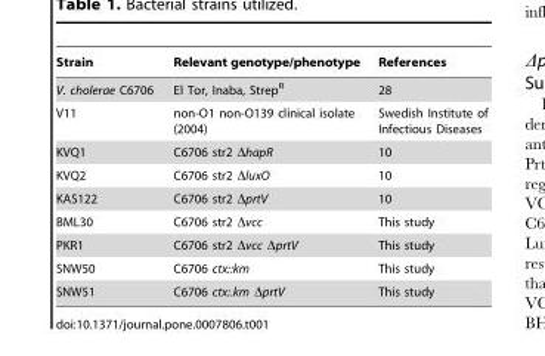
<table><thead><tr><td>Strain</td><td>Relevant genotype/phenotype</td><td>References</td></tr></thead><tbody><tr><td>V. cholerae C6706</td><td>El Tor, Inaba, Strep<sup>R</sup></td><td>28</td></tr><tr><td>V11</td><td>non-O1 non-O139 clinical isolate (2004)</td><td>Swedish Institute of Infectious Diseases</td></tr><tr><td>KVQ1</td><td>C6706 str2 ΔhapR</td><td>10</td></tr><tr><td>KVQ2</td><td>C6706 str2 ΔluxO</td><td>10</td></tr><tr><td>KAS122</td><td>C6706 str2 ΔprtV</td><td>10</td></tr><tr><td>BML30</td><td>C6706 str2 Δvcc</td><td>This study</td></tr><tr><td>PKR1</td><td>C6706 str2 Δvcc ΔprtV</td><td>This study</td></tr><tr><td>SNW50</td><td>C6706 ctx::km</td><td>This study</td></tr><tr><td>SNW51</td><td>C6706 ctx:.km ΔprtV</td><td>This study</td></tr></tbody></table>